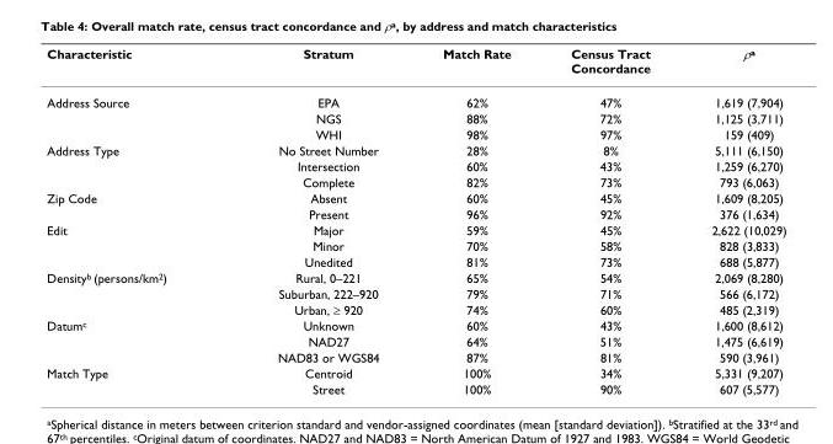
<table><thead><tr><td>Characteristic</td><td>Stratum</td><td>Match Rate</td><td>Census Tract Concordance</td><td>ρ<sup>a</sup></td></tr></thead><tbody><tr><td rowspan="3">Address Source</td><td>EPA</td><td>62%</td><td>47%</td><td>1,619 (7,904)</td></tr><tr><td>NGS</td><td>88%</td><td>72%</td><td>1,125 (3,711)</td></tr><tr><td>WHI</td><td>98%</td><td>97%</td><td>159 (409)</td></tr><tr><td rowspan="3">Address Type</td><td>No Street Number</td><td>28%</td><td>8%</td><td>5,111 (6,150)</td></tr><tr><td>Intersection</td><td>60%</td><td>43%</td><td>1,259 (6,270)</td></tr><tr><td>Complete</td><td>82%</td><td>73%</td><td>793 (6,063)</td></tr><tr><td rowspan="2">Zip Code</td><td>Absent</td><td>60%</td><td>45%</td><td>1,609 (8,205)</td></tr><tr><td>Present</td><td>96%</td><td>92%</td><td>376 (1,634)</td></tr><tr><td rowspan="3">Edit</td><td>Major</td><td>59%</td><td>45%</td><td>2,622 (10,029)</td></tr><tr><td>Minor</td><td>70%</td><td>58%</td><td>828 (3,833)</td></tr><tr><td>Unedited</td><td>81%</td><td>73%</td><td>688 (5,877)</td></tr><tr><td rowspan="3">Density<sup>b</sup> (persons/km<sup>2</sup>)</td><td>Rural, 0–221</td><td>65%</td><td>54%</td><td>2,069 (8,280)</td></tr><tr><td>Suburban, 222–920</td><td>79%</td><td>71%</td><td>566 (6,172)</td></tr><tr><td>Urban, ≥ 920</td><td>74%</td><td>60%</td><td>485 (2,319)</td></tr><tr><td rowspan="3">Datum<sup>c</sup></td><td>Unknown</td><td>60%</td><td>43%</td><td>1,600 (8,612)</td></tr><tr><td>NAD27</td><td>64%</td><td>51%</td><td>1,475 (6,619)</td></tr><tr><td>NAD83 or WGS84</td><td>87%</td><td>81%</td><td>590 (3,961)</td></tr><tr><td rowspan="2">Match Type</td><td>Centroid</td><td>100%</td><td>34%</td><td>5,331 (9,207)</td></tr><tr><td>Street</td><td>100%</td><td>90%</td><td>607 (5,577)</td></tr></tbody></table>